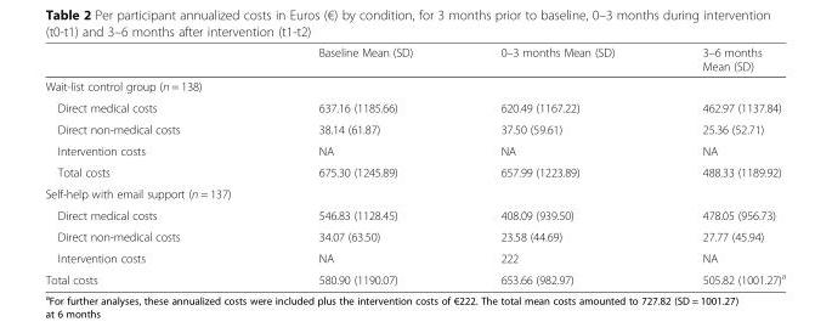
<table><thead><tr><td></td><td>Baseline Mean (SD)</td><td>0–3 months Mean (SD)</td><td>3–6 months Mean (SD)</td></tr></thead><tbody><tr><td colspan="4">Wait-list control group (n = 138)</td></tr><tr><td>Direct medical costs</td><td>637.16 (1185.66)</td><td>620.49 (1167.22)</td><td>462.97 (1137.84)</td></tr><tr><td>Direct non-medical costs</td><td>38.14 (61.87)</td><td>37.50 (59.61)</td><td>25.36 (52.71)</td></tr><tr><td>Intervention costs</td><td>NA</td><td>NA</td><td>NA</td></tr><tr><td>Total costs</td><td>675.30 (1245.89)</td><td>657.99 (1223.89)</td><td>488.33 (1189.92)</td></tr><tr><td colspan="4">Self-help with email support (n = 137)</td></tr><tr><td>Direct medical costs</td><td>546.83 (1128.45)</td><td>408.09 (939.50)</td><td>478.05 (956.73)</td></tr><tr><td>Direct non-medical costs</td><td>34.07 (63.50)</td><td>23.58 (44.69)</td><td>27.77 (45.94)</td></tr><tr><td>Intervention costs</td><td>NA</td><td>222</td><td>NA</td></tr><tr><td>Total costs</td><td>580.90 (1190.07)</td><td>653.66 (982.97)</td><td>505.82 (1001.27)<sup>a</sup></td></tr></tbody></table>